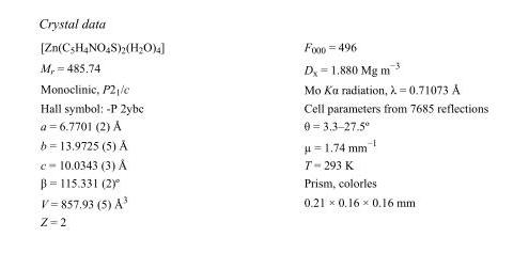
<table><tbody><tr><td>[Zn(C<sub>5</sub>H<sub>4</sub>NO<sub>4</sub>S)<sub>2</sub>(H<sub>2</sub>O)<sub>4</sub>]</td><td>F000 = 496</td></tr><tr><td>M<sub>r</sub> = 485.74</td><td>D<sub>x</sub> = 1.880 Mg m<sup>−3</sup></td></tr><tr><td>Monoclinic, P2<sub>1</sub>/c</td><td>Mo Kα radiation, λ = 0.71073 Å</td></tr><tr><td>Hall symbol: -P 2ybc</td><td>Cell parameters from 7685 reflections</td></tr><tr><td>a = 6.7701 (2) Å</td><td>θ = 3.3–27.5º</td></tr><tr><td>b = 13.9725 (5) Å</td><td>µ = 1.74 mm<sup>−1</sup></td></tr><tr><td>c = 10.0343 (3) Å</td><td>T = 293 K</td></tr><tr><td>β = 115.331 (2)º</td><td>Prism, colorles</td></tr><tr><td>V = 857.93 (5) Å<sup>3</sup></td><td>0.21 × 0.16 × 0.16 mm</td></tr><tr><td>Z = 2</td><td></td></tr></tbody></table>